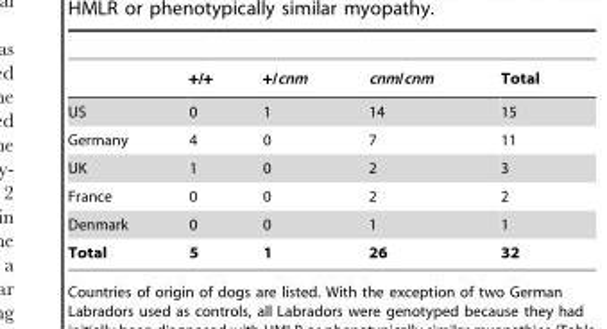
<table><thead><tr><td></td><td>+/+</td><td>+/cnm</td><td>cnm/cnm</td><td>Total</td></tr></thead><tbody><tr><td>US</td><td>0</td><td>1</td><td>14</td><td>15</td></tr><tr><td>Germany</td><td>4</td><td>0</td><td>7</td><td>11</td></tr><tr><td>UK</td><td>1</td><td>0</td><td>2</td><td>3</td></tr><tr><td>France</td><td>0</td><td>0</td><td>2</td><td>2</td></tr><tr><td>Denmark</td><td>0</td><td>0</td><td>1</td><td>1</td></tr><tr><td>Total</td><td>5</td><td>1</td><td>26</td><td>32</td></tr></tbody></table>